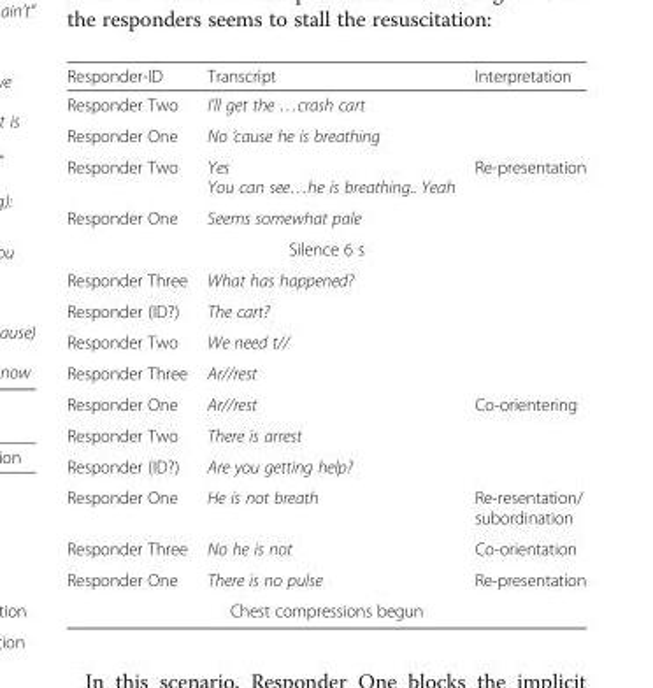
<table><thead><tr><td>Responder-ID</td><td>Transcript</td><td>Interpretation</td></tr></thead><tbody><tr><td>Responder Two</td><td>I’ll get the …crash cart</td><td></td></tr><tr><td>Responder One</td><td>No ‘cause he is breathing</td><td></td></tr><tr><td>Responder Two</td><td>Yes You can see…he is breathing.. Yeah</td><td>Re-presentation</td></tr><tr><td>Responder One</td><td>Seems somewhat pale</td><td></td></tr><tr><td colspan="3">Silence 6 s</td></tr><tr><td>Responder Three</td><td>What has happened?</td><td></td></tr><tr><td>Responder (ID?)</td><td>The cart?</td><td></td></tr><tr><td>Responder Two</td><td>We need t//</td><td></td></tr><tr><td>Responder Three</td><td>Ar//rest</td><td></td></tr><tr><td>Responder One</td><td>Ar//rest</td><td>Co-orientering</td></tr><tr><td>Responder Two</td><td>There is arrest</td><td></td></tr><tr><td>Responder (ID?)</td><td>Are you getting help?</td><td></td></tr><tr><td>Responder One</td><td>He is not breath</td><td>Re-resentation/ subordination</td></tr><tr><td>Responder Three</td><td>No he is not</td><td>Co-orientation</td></tr><tr><td>Responder One</td><td>There is no pulse</td><td>Re-presentation</td></tr><tr><td colspan="3">Chest compressions begun</td></tr></tbody></table>